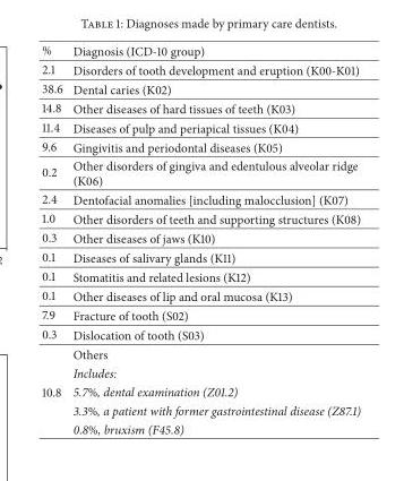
<table><thead><tr><td>%</td><td>Diagnosis (ICD-10 group)</td></tr></thead><tbody><tr><td>2.1</td><td>Disorders of tooth development and eruption (K00-K01)</td></tr><tr><td>38.6</td><td>Dental caries (K02)</td></tr><tr><td>14.8</td><td>Other diseases of hard tissues of teeth (K03)</td></tr><tr><td>11.4</td><td>Diseases of pulp and periapical tissues (K04)</td></tr><tr><td>9.6</td><td>Gingivitis and periodontal diseases (K05)</td></tr><tr><td>0.2</td><td>Other disorders of gingiva and edentulous alveolar ridge (K06)</td></tr><tr><td>2.4</td><td>Dentofacial anomalies [including malocclusion] (K07)</td></tr><tr><td>1.0</td><td>Other disorders of teeth and supporting structures (K08)</td></tr><tr><td>0.3</td><td>Other diseases of jaws (K10)</td></tr><tr><td>0.1</td><td>Diseases of salivary glands (K11)</td></tr><tr><td>0.1</td><td>Stomatitis and related lesions (K12)</td></tr><tr><td>0.1</td><td>Other diseases of lip and oral mucosa (K13)</td></tr><tr><td>7.9</td><td>Fracture of tooth (S02)</td></tr><tr><td>0.3</td><td>Dislocation of tooth (S03)</td></tr><tr><td rowspan="5">10.8</td><td>Others</td></tr><tr><td>Includes:</td></tr><tr><td>5.7%, dental examination (Z01.2)</td></tr><tr><td>3.3%, a patient with former gastrointestinal disease (Z87.1)</td></tr><tr><td>0.8%, bruxism (F45.8)</td></tr></tbody></table>